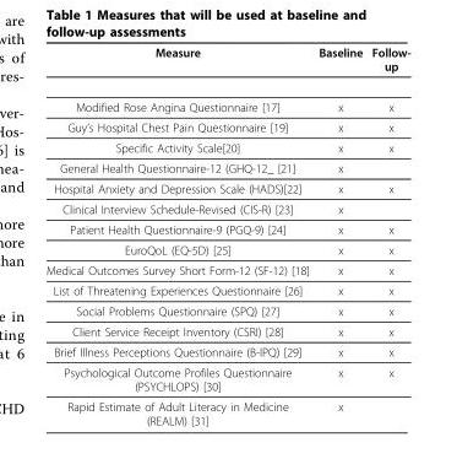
<table><thead><tr><td>Measure</td><td>Baseline</td><td>Follow- up</td></tr></thead><tbody><tr><td>Modified Rose Angina Questionnaire [17]</td><td>x</td><td>x</td></tr><tr><td>Guy’s Hospital Chest Pain Questionnaire [19]</td><td>x</td><td>x</td></tr><tr><td>Specific Activity Scale[20]</td><td>x</td><td>x</td></tr><tr><td>General Health Questionnaire-12 (GHQ-12_ [21]</td><td>x</td><td></td></tr><tr><td>Hospital Anxiety and Depression Scale (HADS)[22]</td><td>x</td><td>x</td></tr><tr><td>Clinical Interview Schedule-Revised (CIS-R) [23]</td><td>x</td><td></td></tr><tr><td>Patient Health Questionnaire-9 (PGQ-9) [24]</td><td>x</td><td>x</td></tr><tr><td>EuroQoL (EQ-5D) [25]</td><td>x</td><td>x</td></tr><tr><td>Medical Outcomes Survey Short Form-12 (SF-12) [18]</td><td>x</td><td>x</td></tr><tr><td>List of Threatening Experiences Questionnaire [26]</td><td>x</td><td>x</td></tr><tr><td>Social Problems Questionnaire (SPQ) [27]</td><td>x</td><td>x</td></tr><tr><td>Client Service Receipt Inventory (CSRI) [28]</td><td>x</td><td>x</td></tr><tr><td>Brief Illness Perceptions Questionnaire (B-IPQ) [29]</td><td>x</td><td>x</td></tr><tr><td>Psychological Outcome Profiles Questionnaire (PSYCHLOPS) [30]</td><td>x</td><td>x</td></tr><tr><td>Rapid Estimate of Adult Literacy in Medicine (REALM) [31]</td><td>x</td><td></td></tr></tbody></table>